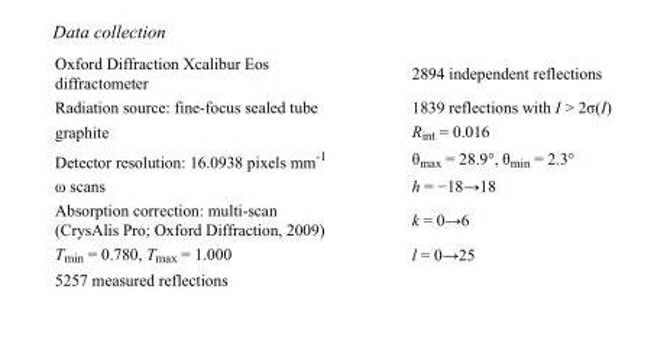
<table><tbody><tr><td>Oxford Diffraction Xcalibur Eos diffractometer</td><td>2894 independent reflections</td></tr><tr><td>Radiation source: fine-focus sealed tube</td><td>1839 reflections with I &gt; 2σ(I)</td></tr><tr><td>graphite</td><td>R<sub>int</sub> = 0.016</td></tr><tr><td>Detector resolution: 16.0938 pixels mm<sup>-1</sup></td><td>θ<sub>max</sub> = 28.9°, θ<sub>min</sub> = 2.3°</td></tr><tr><td>ω scans</td><td>h = −18→18</td></tr><tr><td>Absorption correction: multi-scan (CrysAlis Pro; Oxford Diffraction, 2009)</td><td>k = 0→6</td></tr><tr><td>T<sub>min</sub> = 0.780, T<sub>max</sub> = 1.000</td><td>l = 0→25</td></tr><tr><td>5257 measured reflections</td><td></td></tr></tbody></table>